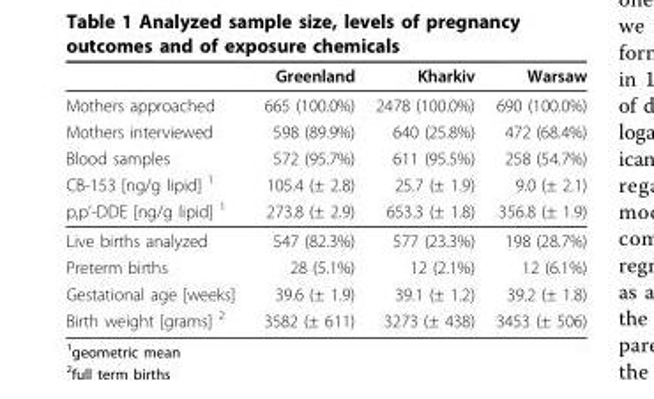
<table><thead><tr><td></td><td>Greenland</td><td>Kharkiv</td><td>Warsaw</td></tr></thead><tbody><tr><td>Mothers approached</td><td>665 (100.0%)</td><td>2478 (100.0%)</td><td>690 (100.0%)</td></tr><tr><td>Mothers interviewed</td><td>598 (89.9%)</td><td>640 (25.8%)</td><td>472 (68.4%)</td></tr><tr><td>Blood samples</td><td>572 (95.7%)</td><td>611 (95.5%)</td><td>258 (54.7%)</td></tr><tr><td>CB-153 [ng/g lipid] <sup>1</sup></td><td>105.4 (± 2.8)</td><td>25.7 (± 1.9)</td><td>9.0 (± 2.1)</td></tr><tr><td>p,p’-DDE [ng/g lipid] <sup>1</sup></td><td>273.8 (± 2.9)</td><td>653.3 (± 1.8)</td><td>356.8 (± 1.9)</td></tr><tr><td>Live births analyzed</td><td>547 (82.3%)</td><td>577 (23.3%)</td><td>198 (28.7%)</td></tr><tr><td>Preterm births</td><td>28 (5.1%)</td><td>12 (2.1%)</td><td>12 (6.1%)</td></tr><tr><td>Gestational age [weeks]</td><td>39.6 (± 1.9)</td><td>39.1 (± 1.2)</td><td>39.2 (± 1.8)</td></tr><tr><td>Birth weight [grams] <sup>2</sup></td><td>3582 (± 611)</td><td>3273 (± 438)</td><td>3453 (± 506)</td></tr></tbody></table>